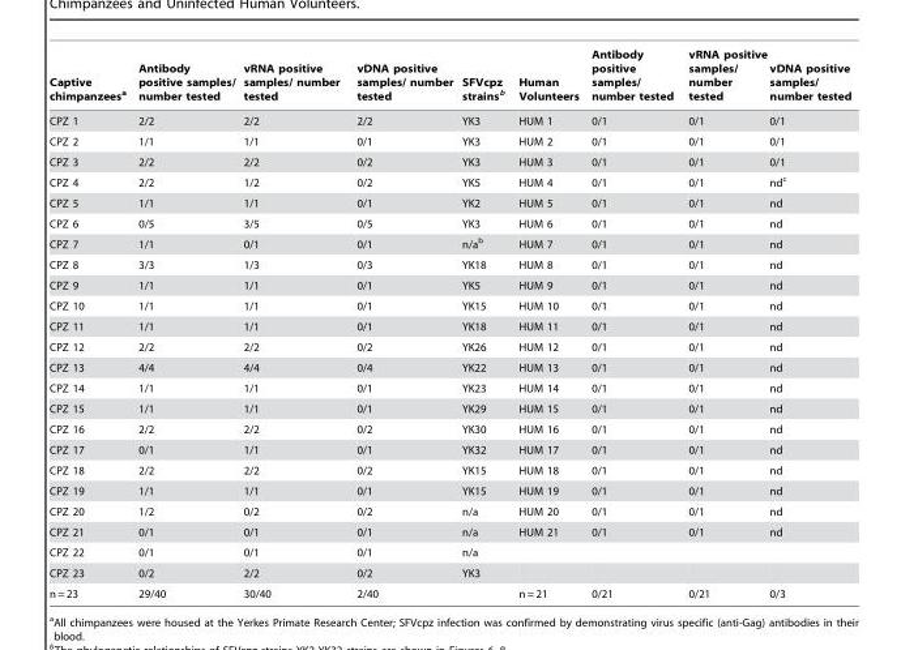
<table><thead><tr><td>Captive chimpanzees<sup>a</sup></td><td>Antibody positive samples/ number tested</td><td>vRNA positive samples/ number tested</td><td>vDNA positive samples/ number tested</td><td>SFVcpz strains<sup>b</sup></td><td>Human Volunteers</td><td>Antibody positive samples/ number tested</td><td>vRNA positive samples/ number tested</td><td>vDNA positive samples/ number tested</td></tr></thead><tbody><tr><td>CPZ 1</td><td>2/2</td><td>2/2</td><td>2/2</td><td>YK3</td><td>HUM 1</td><td>0/1</td><td>0/1</td><td>0/1</td></tr><tr><td>CPZ 2</td><td>1/1</td><td>1/1</td><td>0/1</td><td>YK3</td><td>HUM 2</td><td>0/1</td><td>0/1</td><td>0/1</td></tr><tr><td>CPZ 3</td><td>2/2</td><td>2/2</td><td>0/2</td><td>YK3</td><td>HUM 3</td><td>0/1</td><td>0/1</td><td>0/1</td></tr><tr><td>CPZ 4</td><td>2/2</td><td>1/2</td><td>0/2</td><td>YK5</td><td>HUM 4</td><td>0/1</td><td>0/1</td><td>nd<sup>c</sup></td></tr><tr><td>CPZ 5</td><td>1/1</td><td>1/1</td><td>0/1</td><td>YK2</td><td>HUM 5</td><td>0/1</td><td>0/1</td><td>nd</td></tr><tr><td>CPZ 6</td><td>0/5</td><td>3/5</td><td>0/5</td><td>YK3</td><td>HUM 6</td><td>0/1</td><td>0/1</td><td>nd</td></tr><tr><td>CPZ 7</td><td>1/1</td><td>0/1</td><td>0/1</td><td>n/a<sup>b</sup></td><td>HUM 7</td><td>0/1</td><td>0/1</td><td>nd</td></tr><tr><td>CPZ 8</td><td>3/3</td><td>1/3</td><td>0/3</td><td>YK18</td><td>HUM 8</td><td>0/1</td><td>0/1</td><td>nd</td></tr><tr><td>CPZ 9</td><td>1/1</td><td>1/1</td><td>0/1</td><td>YK5</td><td>HUM 9</td><td>0/1</td><td>0/1</td><td>nd</td></tr><tr><td>CPZ 10</td><td>1/1</td><td>1/1</td><td>0/1</td><td>YK15</td><td>HUM 10</td><td>0/1</td><td>0/1</td><td>nd</td></tr><tr><td>CPZ 11</td><td>1/1</td><td>1/1</td><td>0/1</td><td>YK18</td><td>HUM 11</td><td>0/1</td><td>0/1</td><td>nd</td></tr><tr><td>CPZ 12</td><td>2/2</td><td>2/2</td><td>0/2</td><td>YK26</td><td>HUM 12</td><td>0/1</td><td>0/1</td><td>nd</td></tr><tr><td>CPZ 13</td><td>4/4</td><td>4/4</td><td>0/4</td><td>YK22</td><td>HUM 13</td><td>0/1</td><td>0/1</td><td>nd</td></tr><tr><td>CPZ 14</td><td>1/1</td><td>1/1</td><td>0/1</td><td>YK23</td><td>HUM 14</td><td>0/1</td><td>0/1</td><td>nd</td></tr><tr><td>CPZ 15</td><td>1/1</td><td>1/1</td><td>0/1</td><td>YK29</td><td>HUM 15</td><td>0/1</td><td>0/1</td><td>nd</td></tr><tr><td>CPZ 16</td><td>2/2</td><td>2/2</td><td>0/2</td><td>YK30</td><td>HUM 16</td><td>0/1</td><td>0/1</td><td>nd</td></tr><tr><td>CPZ 17</td><td>0/1</td><td>1/1</td><td>0/1</td><td>YK32</td><td>HUM 17</td><td>0/1</td><td>0/1</td><td>nd</td></tr><tr><td>CPZ 18</td><td>2/2</td><td>2/2</td><td>0/2</td><td>YK15</td><td>HUM 18</td><td>0/1</td><td>0/1</td><td>nd</td></tr><tr><td>CPZ 19</td><td>1/1</td><td>1/1</td><td>0/1</td><td>YK15</td><td>HUM 19</td><td>0/1</td><td>0/1</td><td>nd</td></tr><tr><td>CPZ 20</td><td>1/2</td><td>0/2</td><td>0/2</td><td>n/a</td><td>HUM 20</td><td>0/1</td><td>0/1</td><td>nd</td></tr><tr><td>CPZ 21</td><td>0/1</td><td>0/1</td><td>0/1</td><td>n/a</td><td>HUM 21</td><td>0/1</td><td>0/1</td><td>nd</td></tr><tr><td>CPZ 22</td><td>0/1</td><td>0/1</td><td>0/1</td><td>n/a</td><td></td><td></td><td></td><td></td></tr><tr><td>CPZ 23</td><td>0/2</td><td>2/2</td><td>0/2</td><td>YK3</td><td></td><td></td><td></td><td></td></tr><tr><td>n = 23</td><td>29/40</td><td>30/40</td><td>2/40</td><td></td><td>n = 21</td><td>0/21</td><td>0/21</td><td>0/3</td></tr></tbody></table>